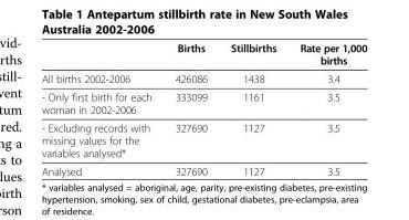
<table><thead><tr><td></td><td>Births</td><td>Stillbirths</td><td>Rate per 1,000 births</td></tr></thead><tbody><tr><td>All births 2002-2006</td><td>426086</td><td>1438</td><td>3.4</td></tr><tr><td>- Only first birth for each woman in 2002-2006</td><td>333099</td><td>1161</td><td>3.5</td></tr><tr><td>- Excluding records with missing values for the variables analysed*</td><td>327690</td><td>1127</td><td>3.5</td></tr><tr><td>Analysed</td><td>327690</td><td>1127</td><td>3.5</td></tr></tbody></table>